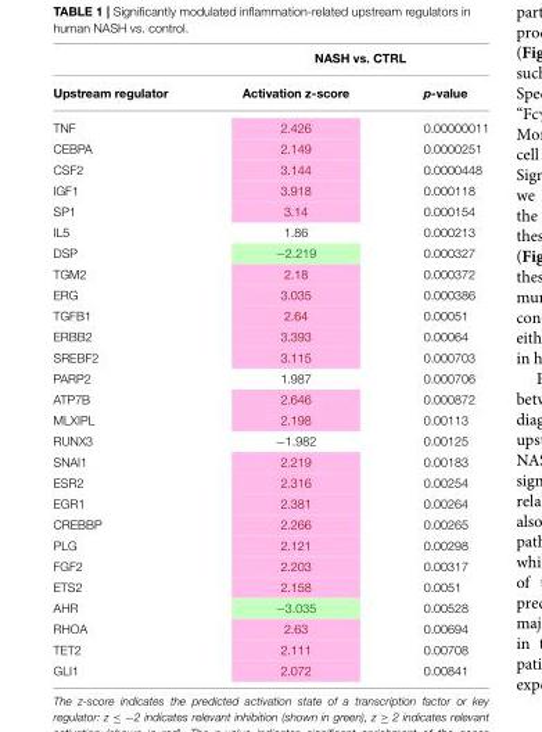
<table><thead><tr><td rowspan="2">Upstream regulator</td><td colspan="2">NASH vs. CTRL</td></tr><tr><td>Activation z-score</td><td>p-value</td></tr></thead><tbody><tr><td>TNF</td><td>2.426</td><td>0.00000011</td></tr><tr><td>CEBPA</td><td>2.149</td><td>0.0000251</td></tr><tr><td>CSF2</td><td>3.144</td><td>0.0000448</td></tr><tr><td>IGF1</td><td>3.918</td><td>0.000118</td></tr><tr><td>SP1</td><td>3.14</td><td>0.000154</td></tr><tr><td>IL5</td><td>1.86</td><td>0.000213</td></tr><tr><td>DSP</td><td>−2.219</td><td>0.000327</td></tr><tr><td>TGM2</td><td>2.18</td><td>0.000372</td></tr><tr><td>ERG</td><td>3.035</td><td>0.000386</td></tr><tr><td>TGFB1</td><td>2.64</td><td>0.00051</td></tr><tr><td>ERBB2</td><td>3.393</td><td>0.00064</td></tr><tr><td>SREBF2</td><td>3.115</td><td>0.000703</td></tr><tr><td>PARP2</td><td>1.987</td><td>0.000706</td></tr><tr><td>ATP7B</td><td>2.646</td><td>0.000872</td></tr><tr><td>MLXIPL</td><td>2.198</td><td>0.00113</td></tr><tr><td>RUNX3</td><td>−1.982</td><td>0.00125</td></tr><tr><td>SNAI1</td><td>2.219</td><td>0.00183</td></tr><tr><td>ESR2</td><td>2.316</td><td>0.00254</td></tr><tr><td>EGR1</td><td>2.381</td><td>0.00264</td></tr><tr><td>CREBBP</td><td>2.266</td><td>0.00265</td></tr><tr><td>PLG</td><td>2.121</td><td>0.00298</td></tr><tr><td>FGF2</td><td>2.203</td><td>0.00317</td></tr><tr><td>ETS2</td><td>2.158</td><td>0.0051</td></tr><tr><td>AHR</td><td>−3.035</td><td>0.00528</td></tr><tr><td>RHOA</td><td>2.63</td><td>0.00694</td></tr><tr><td>TET2</td><td>2.111</td><td>0.00708</td></tr><tr><td>GLI1</td><td>2.072</td><td>0.00841</td></tr></tbody></table>